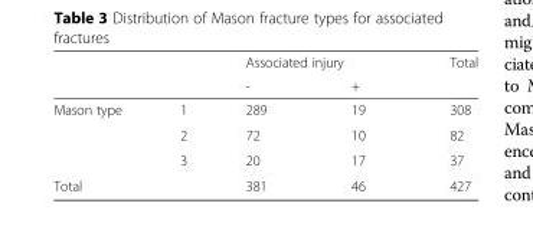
<table><thead><tr><td rowspan="2"></td><td rowspan="2"></td><td colspan="2">Associated injury</td><td rowspan="2">Total</td></tr><tr><td>-</td><td>+</td></tr></thead><tbody><tr><td rowspan="3">Mason type</td><td>1</td><td>289</td><td>19</td><td>308</td></tr><tr><td>2</td><td>72</td><td>10</td><td>82</td></tr><tr><td>3</td><td>20</td><td>17</td><td>37</td></tr><tr><td>Total</td><td></td><td>381</td><td>46</td><td>427</td></tr></tbody></table>